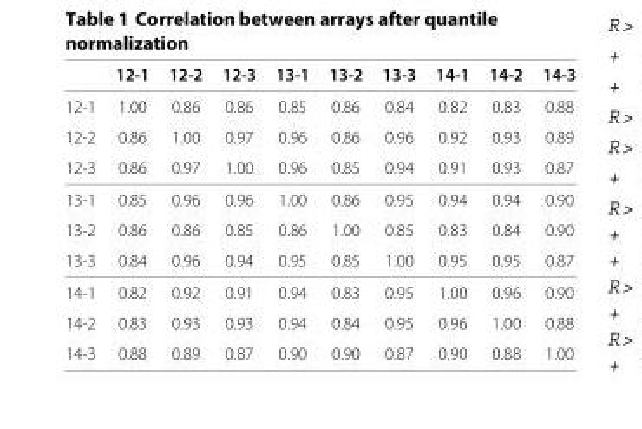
<table><thead><tr><td></td><td>12-1</td><td>12-2</td><td>12-3</td><td>13-1</td><td>13-2</td><td>13-3</td><td>14-1</td><td>14-2</td><td>14-3</td></tr></thead><tbody><tr><td>12-1</td><td>1.00</td><td>0.86</td><td>0.86</td><td>0.85</td><td>0.86</td><td>0.84</td><td>0.82</td><td>0.83</td><td>0.88</td></tr><tr><td>12-2</td><td>0.86</td><td>1.00</td><td>0.97</td><td>0.96</td><td>0.86</td><td>0.96</td><td>0.92</td><td>0.93</td><td>0.89</td></tr><tr><td>12-3</td><td>0.86</td><td>0.97</td><td>1.00</td><td>0.96</td><td>0.85</td><td>0.94</td><td>0.91</td><td>0.93</td><td>0.87</td></tr><tr><td>13-1</td><td>0.85</td><td>0.96</td><td>0.96</td><td>1.00</td><td>0.86</td><td>0.95</td><td>0.94</td><td>0.94</td><td>0.90</td></tr><tr><td>13-2</td><td>0.86</td><td>0.86</td><td>0.85</td><td>0.86</td><td>1.00</td><td>0.85</td><td>0.83</td><td>0.84</td><td>0.90</td></tr><tr><td>13-3</td><td>0.84</td><td>0.96</td><td>0.94</td><td>0.95</td><td>0.85</td><td>1.00</td><td>0.95</td><td>0.95</td><td>0.87</td></tr><tr><td>14-1</td><td>0.82</td><td>0.92</td><td>0.91</td><td>0.94</td><td>0.83</td><td>0.95</td><td>1.00</td><td>0.96</td><td>0.90</td></tr><tr><td>14-2</td><td>0.83</td><td>0.93</td><td>0.93</td><td>0.94</td><td>0.84</td><td>0.95</td><td>0.96</td><td>1.00</td><td>0.88</td></tr><tr><td>14-3</td><td>0.88</td><td>0.89</td><td>0.87</td><td>0.90</td><td>0.90</td><td>0.87</td><td>0.90</td><td>0.88</td><td>1.00</td></tr></tbody></table>